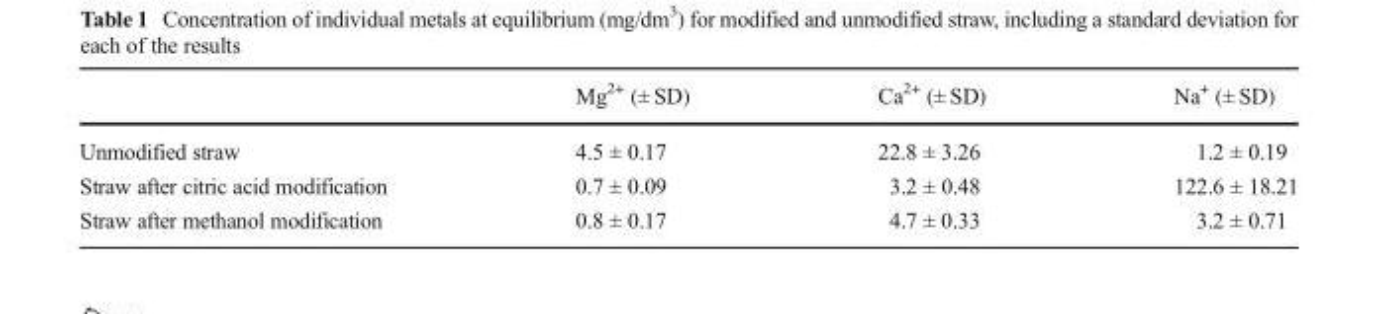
<table><thead><tr><td></td><td>Mg<sup>2+</sup> (± SD)</td><td>Ca<sup>2+</sup> (± SD)</td><td>Na<sup>+</sup> (± SD)</td></tr></thead><tbody><tr><td>Unmodified straw</td><td>4.5 ± 0.17</td><td>22.8 ± 3.26</td><td>1.2 ± 0.19</td></tr><tr><td>Straw after citric acid modification</td><td>0.7 ± 0.09</td><td>3.2 ± 0.48</td><td>122.6 ± 18.21</td></tr><tr><td>Straw after methanol modification</td><td>0.8 ± 0.17</td><td>4.7 ± 0.33</td><td>3.2 ± 0.71</td></tr></tbody></table>